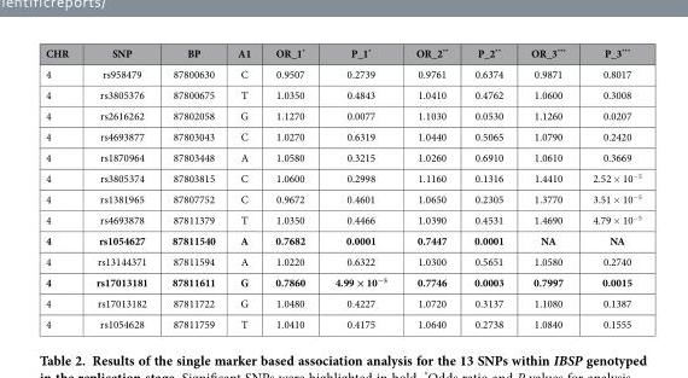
<table><thead><tr><td>CHR</td><td>SNP</td><td>BP</td><td>A1</td><td>OR_1*</td><td>P_1*</td><td>OR_2**</td><td>P_2**</td><td>OR_3***</td><td>P_3***</td></tr></thead><tbody><tr><td>4</td><td>rs958479</td><td>87800630</td><td>C</td><td>0.9507</td><td>0.2739</td><td>0.9761</td><td>0.6374</td><td>0.9871</td><td>0.8017</td></tr><tr><td>4</td><td>rs3805376</td><td>87800675</td><td>T</td><td>1.0350</td><td>0.4843</td><td>1.0410</td><td>0.4762</td><td>1.0600</td><td>0.3008</td></tr><tr><td>4</td><td>rs2616262</td><td>87802058</td><td>G</td><td>1.1270</td><td>0.0077</td><td>1.1030</td><td>0.0530</td><td>1.1260</td><td>0.0207</td></tr><tr><td>4</td><td>rs4693877</td><td>87803043</td><td>C</td><td>1.0270</td><td>0.6319</td><td>1.0440</td><td>0.5065</td><td>1.0790</td><td>0.2420</td></tr><tr><td>4</td><td>rs1870964</td><td>87803448</td><td>A</td><td>1.0580</td><td>0.3215</td><td>1.0260</td><td>0.6910</td><td>1.0610</td><td>0.3669</td></tr><tr><td>4</td><td>rs3805374</td><td>87803815</td><td>C</td><td>1.0600</td><td>0.2998</td><td>1.1160</td><td>0.1316</td><td>1.4410</td><td>2.52 × 10<sup>−5</sup></td></tr><tr><td>4</td><td>rs1381965</td><td>87807752</td><td>C</td><td>0.9672</td><td>0.4601</td><td>1.0650</td><td>0.2305</td><td>1.3770</td><td>3.51 × 10<sup>−5</sup></td></tr><tr><td>4</td><td>rs4693878</td><td>87811379</td><td>T</td><td>1.0350</td><td>0.4466</td><td>1.0390</td><td>0.4531</td><td>1.4690</td><td>4.79 × 10<sup>−5</sup></td></tr><tr><td>4</td><td>rs1054627</td><td>87811540</td><td>A</td><td>0.7682</td><td>0.0001</td><td>0.7447</td><td>0.0001</td><td>NA</td><td>NA</td></tr><tr><td>4</td><td>rs13144371</td><td>87811594</td><td>A</td><td>1.0220</td><td>0.6322</td><td>1.0300</td><td>0.5651</td><td>1.0580</td><td>0.2740</td></tr><tr><td>4</td><td>rs17013181</td><td>87811611</td><td>G</td><td>0.7860</td><td>4.99 × 10<sup>−5</sup></td><td>0.7746</td><td>0.0003</td><td>0.7997</td><td>0.0015</td></tr><tr><td>4</td><td>rs17013182</td><td>87811722</td><td>G</td><td>1.0480</td><td>0.4227</td><td>1.0720</td><td>0.3137</td><td>1.1080</td><td>0.1387</td></tr><tr><td>4</td><td>rs1054628</td><td>87811759</td><td>T</td><td>1.0410</td><td>0.4175</td><td>1.0640</td><td>0.2738</td><td>1.0840</td><td>0.1555</td></tr></tbody></table>